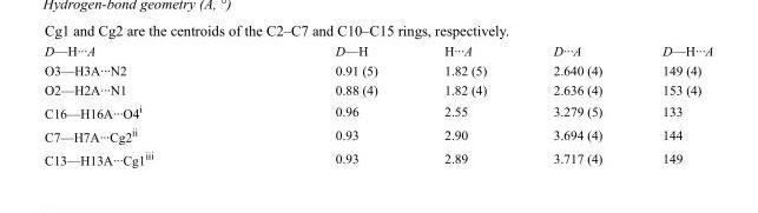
<table><tbody><tr><td>D—H···A</td><td>D—H</td><td>H···A</td><td>D···A</td><td>D—H···A</td></tr><tr><td>O3—H3A···N2</td><td>0.91 (5)</td><td>1.82 (5)</td><td>2.640 (4)</td><td>149 (4)</td></tr><tr><td>O2—H2A···N1</td><td>0.88 (4)</td><td>1.82 (4)</td><td>2.636 (4)</td><td>153 (4)</td></tr><tr><td>C16—H16A···O4<sup>i</sup></td><td>0.96</td><td>2.55</td><td>3.279 (5)</td><td>133</td></tr><tr><td>C7—H7A···Cg2<sup>ii</sup></td><td>0.93</td><td>2.90</td><td>3.694 (4)</td><td>144</td></tr><tr><td>C13—H13A···Cg1<sup>iii</sup></td><td>0.93</td><td>2.89</td><td>3.717 (4)</td><td>149</td></tr></tbody></table>